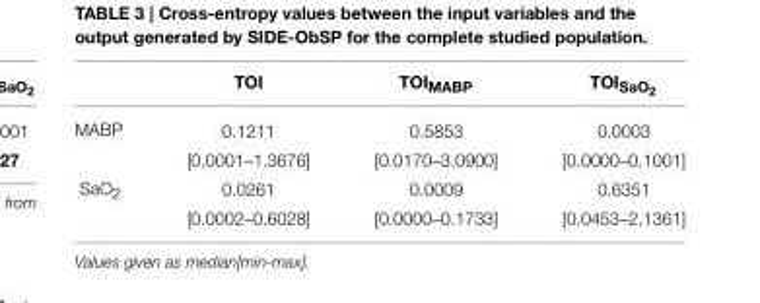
<table><thead><tr><td></td><td>TOI</td><td>TOI<sub>MABP</sub></td><td>TOISaO2</td></tr></thead><tbody><tr><td rowspan="2">MABP</td><td>0.1211</td><td>0.5853</td><td>0.0003</td></tr><tr><td>[0.0001–1.3676]</td><td>[0.0170–3.0900]</td><td>[0.0000–0.1001]</td></tr><tr><td rowspan="2">SaO<sub>2</sub></td><td>0.0261</td><td>0.0009</td><td>0.6351</td></tr><tr><td>[0.0002–0.6028]</td><td>[0.0000–0.1733]</td><td>[0.0453–2.1361]</td></tr></tbody></table>